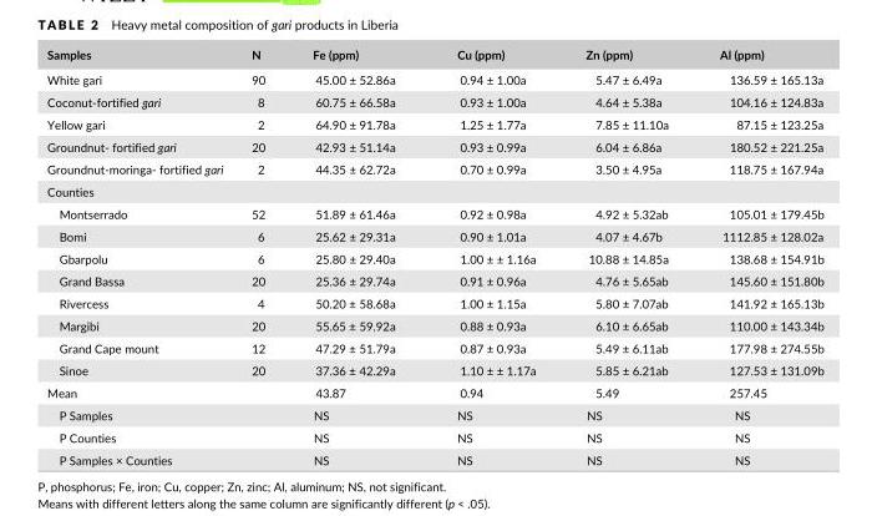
<table><thead><tr><td>Samples</td><td>N</td><td>Fe (ppm)</td><td>Cu (ppm)</td><td>Zn (ppm)</td><td>Al (ppm)</td></tr></thead><tbody><tr><td>White gari</td><td>90</td><td>45.00 ± 52.86a</td><td>0.94 ± 1.00a</td><td>5.47 ± 6.49a</td><td>136.59 ± 165.13a</td></tr><tr><td>Coconut- fortified gari</td><td>8</td><td>60.75 ± 66.58a</td><td>0.93 ± 1.00a</td><td>4.64 ± 5.38a</td><td>104.16 ± 124.83a</td></tr><tr><td>Yellow gari</td><td>2</td><td>64.90 ± 91.78a</td><td>1.25 ± 1.77a</td><td>7.85 ± 11.10a</td><td>87.15 ± 123.25a</td></tr><tr><td>Groundnut- fortified gari</td><td>20</td><td>42.93 ± 51.14a</td><td>0.93 ± 0.99a</td><td>6.04 ± 6.86a</td><td>180.52 ± 221.25a</td></tr><tr><td>Groundnut- moringa- fortified gari</td><td>2</td><td>44.35 ± 62.72a</td><td>0.70 ± 0.99a</td><td>3.50 ± 4.95a</td><td>118.75 ± 167.94a</td></tr><tr><td colspan="6">Counties</td></tr><tr><td>Montserrado</td><td>52</td><td>51.89 ± 61.46a</td><td>0.92 ± 0.98a</td><td>4.92 ± 5.32ab</td><td>105.01 ± 179.45b</td></tr><tr><td>Bomi</td><td>6</td><td>25.62 ± 29.31a</td><td>0.90 ± 1.01a</td><td>4.07 ± 4.67b</td><td>1112.85 ± 128.02a</td></tr><tr><td>Gbarpolu</td><td>6</td><td>25.80 ± 29.40a</td><td>1.00 ± ± 1.16a</td><td>10.88 ± 14.85a</td><td>138.68 ± 154.91b</td></tr><tr><td>Grand Bassa</td><td>20</td><td>25.36 ± 29.74a</td><td>0.91 ± 0.96a</td><td>4.76 ± 5.65ab</td><td>145.60 ± 151.80b</td></tr><tr><td>Rivercess</td><td>4</td><td>50.20 ± 58.68a</td><td>1.00 ± 1.15a</td><td>5.80 ± 7.07ab</td><td>141.92 ± 165.13b</td></tr><tr><td>Margibi</td><td>20</td><td>55.65 ± 59.92a</td><td>0.88 ± 0.93a</td><td>6.10 ± 6.65ab</td><td>110.00 ± 143.34b</td></tr><tr><td>Grand Cape mount</td><td>12</td><td>47.29 ± 51.79a</td><td>0.87 ± 0.93a</td><td>5.49 ± 6.11ab</td><td>177.98 ± 274.55b</td></tr><tr><td>Sinoe</td><td>20</td><td>37.36 ± 42.29a</td><td>1.10 ± ± 1.17a</td><td>5.85 ± 6.21ab</td><td>127.53 ± 131.09b</td></tr><tr><td>Mean</td><td></td><td>43.87</td><td>0.94</td><td>5.49</td><td>257.45</td></tr><tr><td colspan="2">P Samples</td><td>NS</td><td>NS</td><td>NS</td><td>NS</td></tr><tr><td colspan="2">P Counties</td><td>NS</td><td>NS</td><td>NS</td><td>NS</td></tr><tr><td colspan="2">P Samples × Counties</td><td>NS</td><td>NS</td><td>NS</td><td>NS</td></tr></tbody></table>